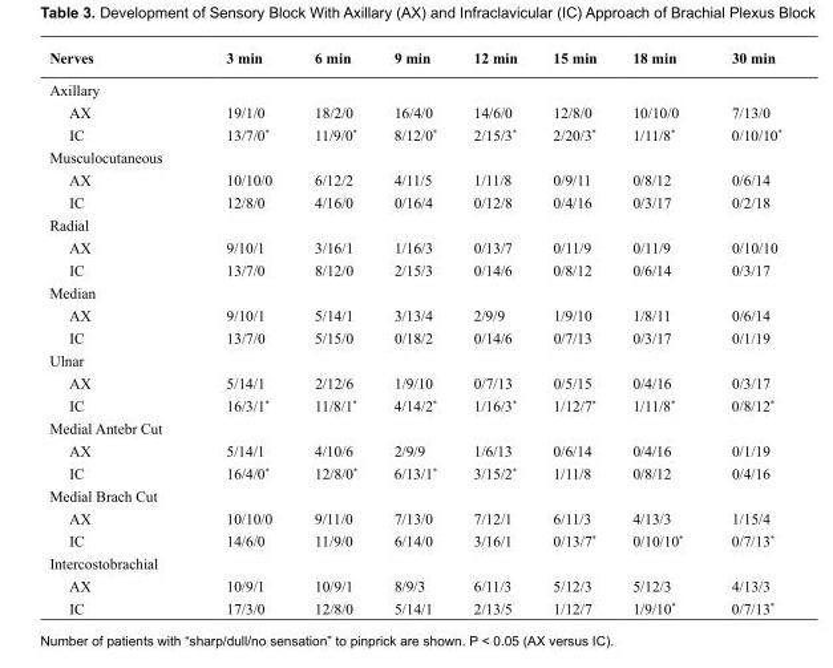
<table><thead><tr><td>Nerves</td><td>3 min</td><td>6 min</td><td>9 min</td><td>12 min</td><td>15 min</td><td>18 min</td><td>30 min</td></tr></thead><tbody><tr><td colspan="8">Axillary</td></tr><tr><td>AX</td><td>19/1/0</td><td>18/2/0</td><td>16/4/0</td><td>14/6/0</td><td>12/8/0</td><td>10/10/0</td><td>7/13/0</td></tr><tr><td>IC</td><td>13/7/0*</td><td>11/9/0*</td><td>8/12/0*</td><td>2/15/3*</td><td>2/20/3*</td><td>1/11/8*</td><td>0/10/10*</td></tr><tr><td colspan="8">Musculocutaneous</td></tr><tr><td>AX</td><td>10/10/0</td><td>6/12/2</td><td>4/11/5</td><td>1/11/8</td><td>0/9/11</td><td>0/8/12</td><td>0/6/14</td></tr><tr><td>IC</td><td>12/8/0</td><td>4/16/0</td><td>0/16/4</td><td>0/12/8</td><td>0/4/16</td><td>0/3/17</td><td>0/2/18</td></tr><tr><td colspan="8">Radial</td></tr><tr><td>AX</td><td>9/10/1</td><td>3/16/1</td><td>1/16/3</td><td>0/13/7</td><td>0/11/9</td><td>0/11/9</td><td>0/10/10</td></tr><tr><td>IC</td><td>13/7/0</td><td>8/12/0</td><td>2/15/3</td><td>0/14/6</td><td>0/8/12</td><td>0/6/14</td><td>0/3/17</td></tr><tr><td colspan="8">Median</td></tr><tr><td>AX</td><td>9/10/1</td><td>5/14/1</td><td>3/13/4</td><td>2/9/9</td><td>1/9/10</td><td>1/8/11</td><td>0/6/14</td></tr><tr><td>IC</td><td>13/7/0</td><td>5/15/0</td><td>0/18/2</td><td>0/14/6</td><td>0/7/13</td><td>0/3/17</td><td>0/1/19</td></tr><tr><td colspan="8">Ulnar</td></tr><tr><td>AX</td><td>5/14/1</td><td>2/12/6</td><td>1/9/10</td><td>0/7/13</td><td>0/5/15</td><td>0/4/16</td><td>0/3/17</td></tr><tr><td>IC</td><td>16/3/1*</td><td>11/8/1*</td><td>4/14/2*</td><td>1/16/3*</td><td>1/12/7*</td><td>1/11/8*</td><td>0/8/12*</td></tr><tr><td colspan="8">Medial Antebr Cut</td></tr><tr><td>AX</td><td>5/14/1</td><td>4/10/6</td><td>2/9/9</td><td>1/6/13</td><td>0/6/14</td><td>0/4/16</td><td>0/1/19</td></tr><tr><td>IC</td><td>16/4/0*</td><td>12/8/0*</td><td>6/13/1*</td><td>3/15/2*</td><td>1/11/8</td><td>0/8/12</td><td>0/4/16</td></tr><tr><td colspan="8">Medial Brach Cut</td></tr><tr><td>AX</td><td>10/10/0</td><td>9/11/0</td><td>7/13/0</td><td>7/12/1</td><td>6/11/3</td><td>4/13/3</td><td>1/15/4</td></tr><tr><td>IC</td><td>14/6/0</td><td>11/9/0</td><td>6/14/0</td><td>3/16/1</td><td>0/13/7*</td><td>0/10/10*</td><td>0/7/13*</td></tr><tr><td colspan="8">Intercostobrachial</td></tr><tr><td>AX</td><td>10/9/1</td><td>10/9/1</td><td>8/9/3</td><td>6/11/3</td><td>5/12/3</td><td>5/12/3</td><td>4/13/3</td></tr><tr><td>IC</td><td>17/3/0</td><td>12/8/0</td><td>5/14/1</td><td>2/13/5</td><td>1/12/7</td><td>1/9/10*</td><td>0/7/13*</td></tr></tbody></table>